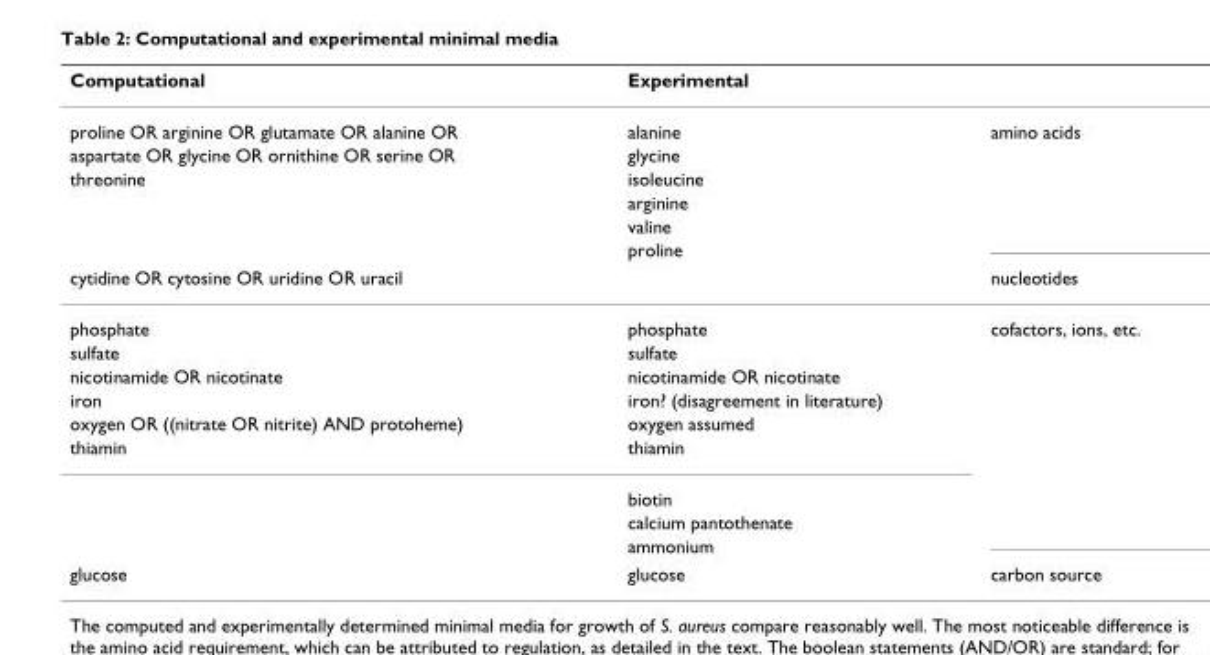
<table><thead><tr><td>Computational</td><td>Experimental</td><td></td></tr></thead><tbody><tr><td>proline OR arginine OR glutamate OR alanine OR</td><td>alanine</td><td>amino acids</td></tr><tr><td>aspartate OR glycine OR ornithine OR serine OR</td><td>glycine</td><td></td></tr><tr><td rowspan="4">threonine</td><td>isoleucine</td><td></td></tr><tr><td>arginine</td><td></td></tr><tr><td>valine</td><td></td></tr><tr><td>proline</td><td></td></tr><tr><td>cytidine OR cytosine OR uridine OR uracil</td><td></td><td>nucleotides</td></tr><tr><td>phosphate</td><td>phosphate</td><td>cofactors, ions, etc.</td></tr><tr><td>sulfate</td><td>sulfate</td><td></td></tr><tr><td>nicotinamide OR nicotinate</td><td>nicotinamide OR nicotinate</td><td></td></tr><tr><td>iron</td><td>iron? (disagreement in literature)</td><td></td></tr><tr><td>oxygen OR ((nitrate OR nitrite) AND protoheme)</td><td>oxygen assumed</td><td></td></tr><tr><td rowspan="4">thiamin</td><td>thiamin</td><td></td></tr><tr><td>biotin</td><td></td></tr><tr><td>calcium pantothenate</td><td></td></tr><tr><td>ammonium</td><td></td></tr><tr><td>glucose</td><td>glucose</td><td>carbon source</td></tr></tbody></table>